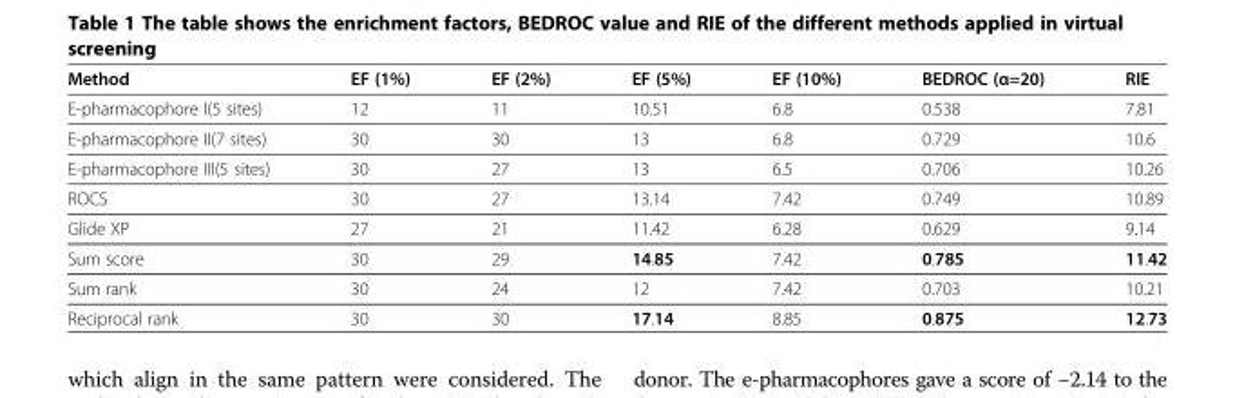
<table><thead><tr><td>Method</td><td>EF (1%)</td><td>EF (2%)</td><td>EF (5%)</td><td>EF (10%)</td><td>BEDROC (α=20)</td><td>RIE</td></tr></thead><tbody><tr><td>E-pharmacophore I(5 sites)</td><td>12</td><td>11</td><td>10.51</td><td>6.8</td><td>0.538</td><td>7.81</td></tr><tr><td>E-pharmacophore II(7 sites)</td><td>30</td><td>30</td><td>13</td><td>6.8</td><td>0.729</td><td>10.6</td></tr><tr><td>E-pharmacophore III(5 sites)</td><td>30</td><td>27</td><td>13</td><td>6.5</td><td>0.706</td><td>10.26</td></tr><tr><td>ROCS</td><td>30</td><td>27</td><td>13.14</td><td>7.42</td><td>0.749</td><td>10.89</td></tr><tr><td>Glide XP</td><td>27</td><td>21</td><td>11.42</td><td>6.28</td><td>0.629</td><td>9.14</td></tr><tr><td>Sum score</td><td>30</td><td>29</td><td>14.85</td><td>7.42</td><td>0.785</td><td>11.42</td></tr><tr><td>Sum rank</td><td>30</td><td>24</td><td>12</td><td>7.42</td><td>0.703</td><td>10.21</td></tr><tr><td>Reciprocal rank</td><td>30</td><td>30</td><td>17.14</td><td>8.85</td><td>0.875</td><td>12.73</td></tr></tbody></table>